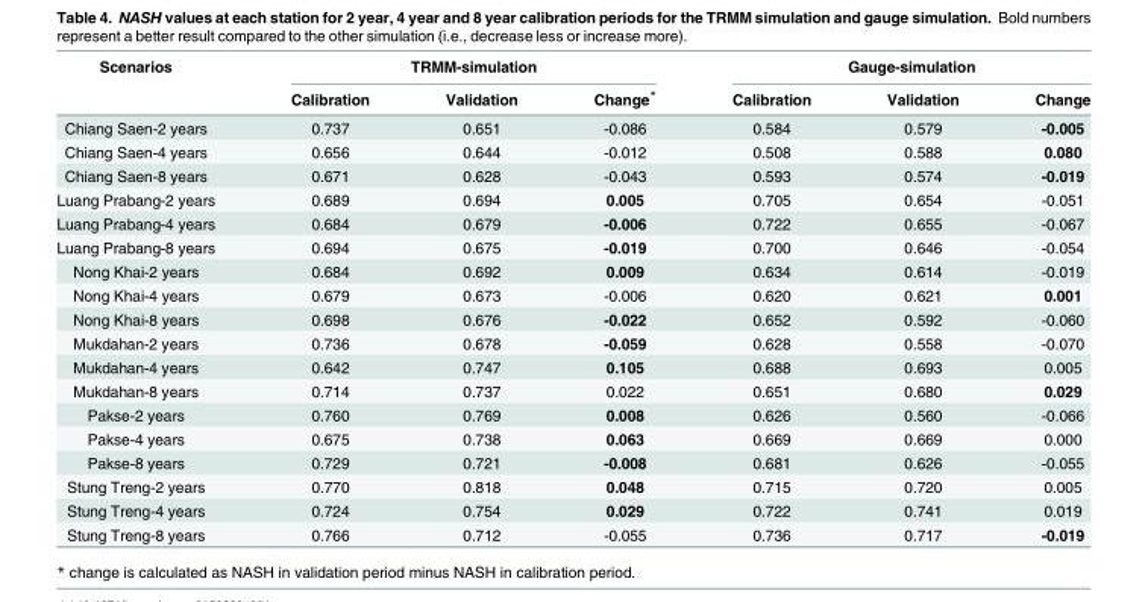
<table><thead><tr><td rowspan="2">Scenarios</td><td colspan="3">TRMM-simulation</td><td colspan="3">Gauge-simulation</td></tr><tr><td>Calibration</td><td>Validation</td><td>Change*</td><td>Calibration</td><td>Validation</td><td>Change</td></tr></thead><tbody><tr><td>Chiang Saen-2 years</td><td>0.737</td><td>0.651</td><td>-0.086</td><td>0.584</td><td>0.579</td><td>-0.005</td></tr><tr><td>Chiang Saen-4 years</td><td>0.656</td><td>0.644</td><td>-0.012</td><td>0.508</td><td>0.588</td><td>0.080</td></tr><tr><td>Chiang Saen-8 years</td><td>0.671</td><td>0.628</td><td>-0.043</td><td>0.593</td><td>0.574</td><td>-0.019</td></tr><tr><td>Luang Prabang-2 years</td><td>0.689</td><td>0.694</td><td>0.005</td><td>0.705</td><td>0.654</td><td>-0.051</td></tr><tr><td>Luang Prabang-4 years</td><td>0.684</td><td>0.679</td><td>-0.006</td><td>0.722</td><td>0.655</td><td>-0.067</td></tr><tr><td>Luang Prabang-8 years</td><td>0.694</td><td>0.675</td><td>-0.019</td><td>0.700</td><td>0.646</td><td>-0.054</td></tr><tr><td>Nong Khai-2 years</td><td>0.684</td><td>0.692</td><td>0.009</td><td>0.634</td><td>0.614</td><td>-0.019</td></tr><tr><td>Nong Khai-4 years</td><td>0.679</td><td>0.673</td><td>-0.006</td><td>0.620</td><td>0.621</td><td>0.001</td></tr><tr><td>Nong Khai-8 years</td><td>0.698</td><td>0.676</td><td>-0.022</td><td>0.652</td><td>0.592</td><td>-0.060</td></tr><tr><td>Mukdahan-2 years</td><td>0.736</td><td>0.678</td><td>-0.059</td><td>0.628</td><td>0.558</td><td>-0.070</td></tr><tr><td>Mukdahan-4 years</td><td>0.642</td><td>0.747</td><td>0.105</td><td>0.688</td><td>0.693</td><td>0.005</td></tr><tr><td>Mukdahan-8 years</td><td>0.714</td><td>0.737</td><td>0.022</td><td>0.651</td><td>0.680</td><td>0.029</td></tr><tr><td>Pakse-2 years</td><td>0.760</td><td>0.769</td><td>0.008</td><td>0.626</td><td>0.560</td><td>-0.066</td></tr><tr><td>Pakse-4 years</td><td>0.675</td><td>0.738</td><td>0.063</td><td>0.669</td><td>0.669</td><td>0.000</td></tr><tr><td>Pakse-8 years</td><td>0.729</td><td>0.721</td><td>-0.008</td><td>0.681</td><td>0.626</td><td>-0.055</td></tr><tr><td>Stung Treng-2 years</td><td>0.770</td><td>0.818</td><td>0.048</td><td>0.715</td><td>0.720</td><td>0.005</td></tr><tr><td>Stung Treng-4 years</td><td>0.724</td><td>0.754</td><td>0.029</td><td>0.722</td><td>0.741</td><td>0.019</td></tr><tr><td>Stung Treng-8 years</td><td>0.766</td><td>0.712</td><td>-0.055</td><td>0.736</td><td>0.717</td><td>-0.019</td></tr></tbody></table>